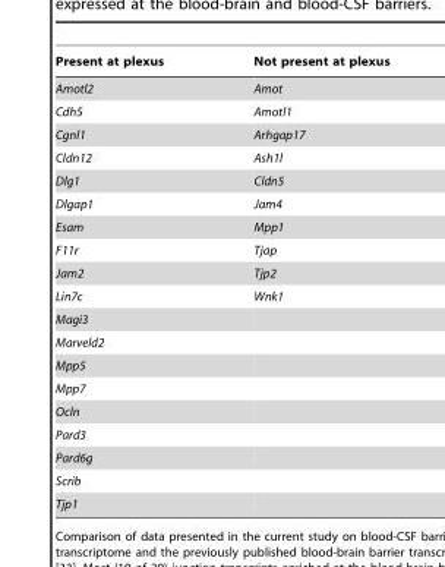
<table><thead><tr><td>Present at plexus</td><td>Not present at plexus</td></tr></thead><tbody><tr><td>Amotl2</td><td>Amot</td></tr><tr><td>Cdh5</td><td>Amotl1</td></tr><tr><td>Cgnl1</td><td>Arhgap17</td></tr><tr><td>Cldn12</td><td>Ash1l</td></tr><tr><td>Dlg1</td><td>Cldn5</td></tr><tr><td>Dlgap1</td><td>Jam4</td></tr><tr><td>Esam</td><td>Mpp1</td></tr><tr><td>F11r</td><td>Tjap</td></tr><tr><td>Jam2</td><td>Tjp2</td></tr><tr><td>Lin7c</td><td>Wnk1</td></tr><tr><td colspan="2">Magi3</td></tr><tr><td colspan="2">Marveld2</td></tr><tr><td colspan="2">Mpp5</td></tr><tr><td colspan="2">Mpp7</td></tr><tr><td colspan="2">Ocln</td></tr><tr><td colspan="2">Pard3</td></tr><tr><td colspan="2">Pard6g</td></tr><tr><td colspan="2">Scrib</td></tr><tr><td>Tjp1</td><td></td></tr></tbody></table>